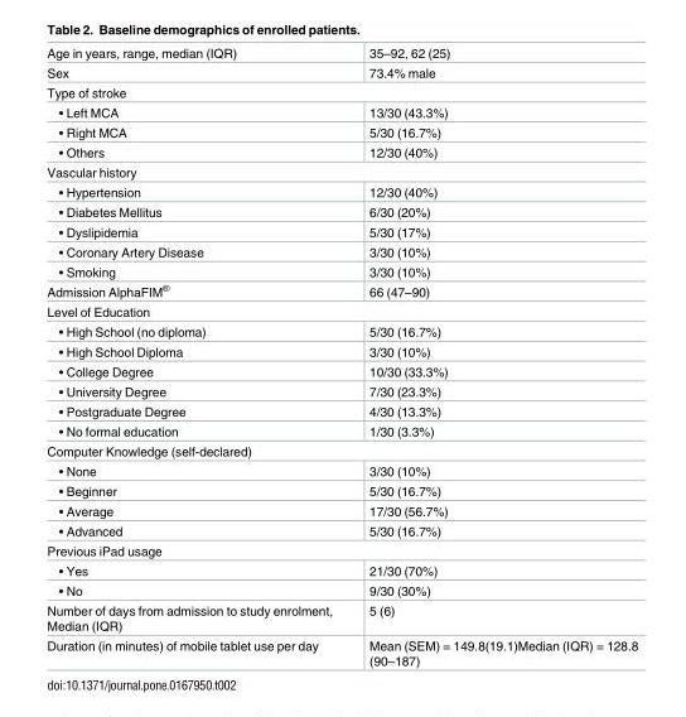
<table><tbody><tr><td>Age in years, range, median (IQR)</td><td>35–92, 62 (25)</td></tr><tr><td>Sex</td><td>73.4% male</td></tr><tr><td colspan="2">Type of stroke</td></tr><tr><td>• Left MCA</td><td>13/30 (43.3%)</td></tr><tr><td>• Right MCA</td><td>5/30 (16.7%)</td></tr><tr><td>• Others</td><td>12/30 (40%)</td></tr><tr><td colspan="2">Vascular history</td></tr><tr><td>• Hypertension</td><td>12/30 (40%)</td></tr><tr><td>• Diabetes Mellitus</td><td>6/30 (20%)</td></tr><tr><td>• Dyslipidemia</td><td>5/30 (17%)</td></tr><tr><td>• Coronary Artery Disease</td><td>3/30 (10%)</td></tr><tr><td>• Smoking</td><td>3/30 (10%)</td></tr><tr><td>Admission AlphaFIM<sup>®</sup></td><td>66 (47–90)</td></tr><tr><td colspan="2">Level of Education</td></tr><tr><td>• High School (no diploma)</td><td>5/30 (16.7%)</td></tr><tr><td>• High School Diploma</td><td>3/30 (10%)</td></tr><tr><td>• College Degree</td><td>10/30 (33.3%)</td></tr><tr><td>• University Degree</td><td>7/30 (23.3%)</td></tr><tr><td>• Postgraduate Degree</td><td>4/30 (13.3%)</td></tr><tr><td>• No formal education</td><td>1/30 (3.3%)</td></tr><tr><td colspan="2">Computer Knowledge (self-declared)</td></tr><tr><td>• None</td><td>3/30 (10%)</td></tr><tr><td>• Beginner</td><td>5/30 (16.7%)</td></tr><tr><td>• Average</td><td>17/30 (56.7%)</td></tr><tr><td>• Advanced</td><td>5/30 (16.7%)</td></tr><tr><td colspan="2">Previous iPad usage</td></tr><tr><td>• Yes</td><td>21/30 (70%)</td></tr><tr><td>• No</td><td>9/30 (30%)</td></tr><tr><td>Number of days from admission to study enrolment, Median (IQR)</td><td>5 (6)</td></tr><tr><td>Duration (in minutes) of mobile tablet use per day</td><td>Mean (SEM) = 149.8(19.1)Median (IQR) = 128.8 (90–187)</td></tr></tbody></table>